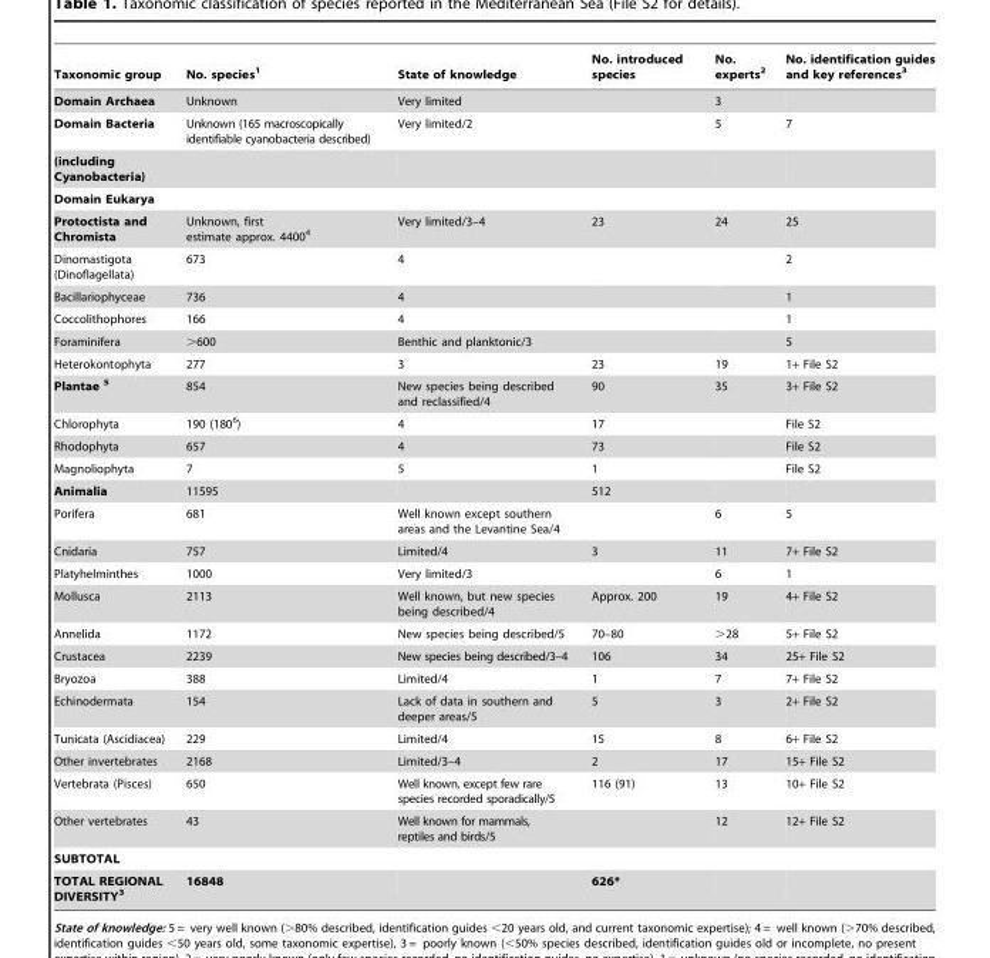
<table><thead><tr><td>Taxonomic group</td><td>No. species<sup>1</sup></td><td>State of knowledge</td><td>No. introduced species</td><td>No. experts<sup>2</sup></td><td>No. identification guides and key references<sup>3</sup></td></tr></thead><tbody><tr><td>Domain Archaea</td><td>Unknown</td><td>Very limited</td><td></td><td>3</td><td></td></tr><tr><td>Domain Bacteria</td><td>Unknown (165 macroscopically identifiable cyanobacteria described)</td><td>Very limited/2</td><td></td><td>5</td><td>7</td></tr><tr><td colspan="6">(including Cyanobacteria)</td></tr><tr><td colspan="6">Domain Eukarya</td></tr><tr><td>Protoctista and Chromista</td><td>Unknown, first estimate approx. 4400<sup>4</sup></td><td>Very limited/3–4</td><td>23</td><td>24</td><td>25</td></tr><tr><td>Dinomastigota (Dinoflagellata)</td><td>673</td><td>4</td><td></td><td></td><td>2</td></tr><tr><td>Bacillariophyceae</td><td>736</td><td>4</td><td></td><td></td><td>1</td></tr><tr><td>Coccolithophores</td><td>166</td><td>4</td><td></td><td></td><td>1</td></tr><tr><td>Foraminifera</td><td>&gt;600</td><td>Benthic and planktonic/3</td><td></td><td></td><td>5</td></tr><tr><td>Heterokontophyta</td><td>277</td><td>3</td><td>23</td><td>19</td><td>1+ File S2</td></tr><tr><td>Plantae <sup>5</sup></td><td>854</td><td>New species being described and reclassified/4</td><td>90</td><td>35</td><td>3+ File S2</td></tr><tr><td>Chlorophyta</td><td>190 (180<sup>6</sup>)</td><td>4</td><td>17</td><td></td><td>File S2</td></tr><tr><td>Rhodophyta</td><td>657</td><td>4</td><td>73</td><td></td><td>File S2</td></tr><tr><td>Magnoliophyta</td><td>7</td><td>5</td><td>1</td><td></td><td>File S2</td></tr><tr><td>Animalia</td><td>11595</td><td></td><td>512</td><td></td><td></td></tr><tr><td>Porifera</td><td>681</td><td>Well known except southern areas and the Levantine Sea/4</td><td></td><td>6</td><td>5</td></tr><tr><td>Cnidaria</td><td>757</td><td>Limited/4</td><td>3</td><td>11</td><td>7+ File S2</td></tr><tr><td>Platyhelminthes</td><td>1000</td><td>Very limited/3</td><td></td><td>6</td><td>1</td></tr><tr><td>Mollusca</td><td>2113</td><td>Well known, but new species being described/4</td><td>Approx. 200</td><td>19</td><td>4+ File S2</td></tr><tr><td>Annelida</td><td>1172</td><td>New species being described/5</td><td>70–80</td><td>&gt;28</td><td>5+ File S2</td></tr><tr><td>Crustacea</td><td>2239</td><td>New species being described/3–4</td><td>106</td><td>34</td><td>25+ File S2</td></tr><tr><td>Bryozoa</td><td>388</td><td>Limited/4</td><td>1</td><td>7</td><td>7+ File S2</td></tr><tr><td>Echinodermata</td><td>154</td><td>Lack of data in southern and deeper areas/5</td><td>5</td><td>3</td><td>2+ File S2</td></tr><tr><td>Tunicata (Ascidiacea)</td><td>229</td><td>Limited/4</td><td>15</td><td>8</td><td>6+ File S2</td></tr><tr><td>Other invertebrates</td><td>2168</td><td>Limited/3–4</td><td>2</td><td>17</td><td>15+ File S2</td></tr><tr><td>Vertebrata (Pisces)</td><td>650</td><td>Well known, except few rare species recorded sporadically/5</td><td>116 (91)</td><td>13</td><td>10+ File S2</td></tr><tr><td>Other vertebrates</td><td>43</td><td>Well known for mammals, reptiles and birds/5</td><td></td><td>12</td><td>12+ File S2</td></tr><tr><td colspan="6">SUBTOTAL</td></tr><tr><td>TOTAL REGIONAL DIVERSITY<sup>3</sup></td><td>16848</td><td></td><td>626*</td><td></td><td></td></tr></tbody></table>